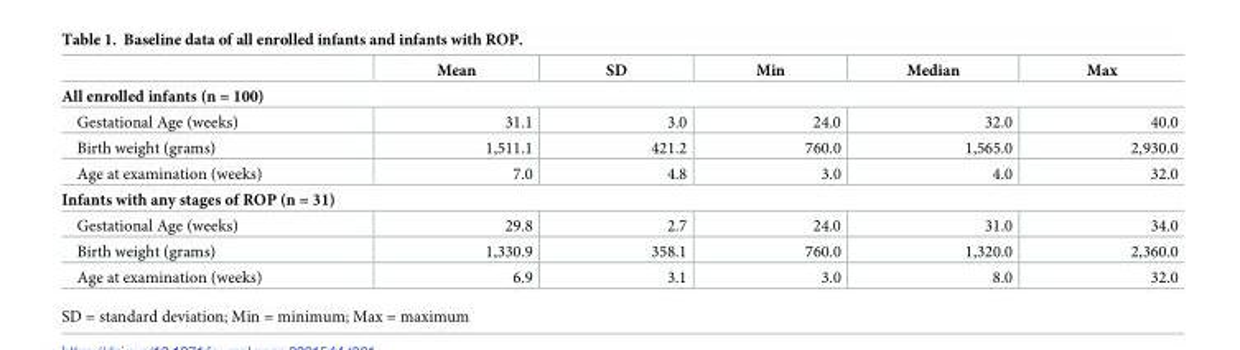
<table><thead><tr><td></td><td>Mean</td><td>SD</td><td>Min</td><td>Median</td><td>Max</td></tr></thead><tbody><tr><td colspan="6">All enrolled infants (n = 100)</td></tr><tr><td>Gestational Age (weeks)</td><td>31.1</td><td>3.0</td><td>24.0</td><td>32.0</td><td>40.0</td></tr><tr><td>Birth weight (grams)</td><td>1,511.1</td><td>421.2</td><td>760.0</td><td>1,565.0</td><td>2,930.0</td></tr><tr><td>Age at examination (weeks)</td><td>7.0</td><td>4.8</td><td>3.0</td><td>4.0</td><td>32.0</td></tr><tr><td colspan="6">Infants with any stages of ROP (n = 31)</td></tr><tr><td>Gestational Age (weeks)</td><td>29.8</td><td>2.7</td><td>24.0</td><td>31.0</td><td>34.0</td></tr><tr><td>Birth weight (grams)</td><td>1,330.9</td><td>358.1</td><td>760.0</td><td>1,320.0</td><td>2,360.0</td></tr><tr><td>Age at examination (weeks)</td><td>6.9</td><td>3.1</td><td>3.0</td><td>8.0</td><td>32.0</td></tr></tbody></table>